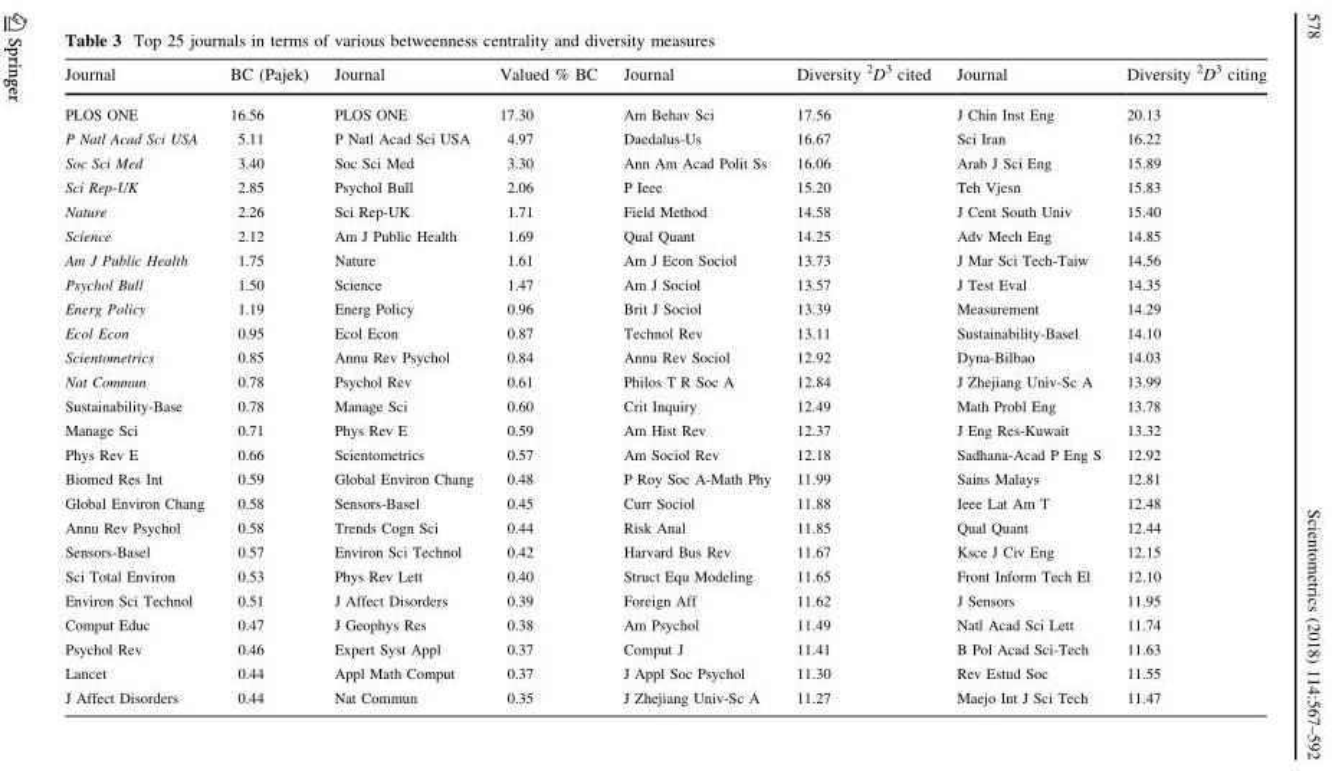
<table><thead><tr><td>Journal</td><td>BC (Pajek)</td><td>Journal</td><td>Valued % BC</td><td>Journal</td><td>Diversity <sup>2</sup>D<sup>3</sup> cited</td><td>Journal</td><td>Diversity <sup>2</sup>D<sup>3</sup> citing</td></tr></thead><tbody><tr><td>PLOS ONE</td><td>16.56</td><td>PLOS ONE</td><td>17.30</td><td>Am Behav Sci</td><td>17.56</td><td>J Chin Inst Eng</td><td>20.13</td></tr><tr><td>P Natl Acad Sci USA</td><td>5.11</td><td>P Natl Acad Sci USA</td><td>4.97</td><td>Daedalus-Us</td><td>16.67</td><td>Sci Iran</td><td>16.22</td></tr><tr><td>Soc Sci Med</td><td>3.40</td><td>Soc Sci Med</td><td>3.30</td><td>Ann Am Acad Polit Ss</td><td>16.06</td><td>Arab J Sci Eng</td><td>15.89</td></tr><tr><td>Sci Rep-UK</td><td>2.85</td><td>Psychol Bull</td><td>2.06</td><td>P Ieee</td><td>15.20</td><td>Teh Vjesn</td><td>15.83</td></tr><tr><td>Nature</td><td>2.26</td><td>Sci Rep-UK</td><td>1.71</td><td>Field Method</td><td>14.58</td><td>J Cent South Univ</td><td>15.40</td></tr><tr><td>Science</td><td>2.12</td><td>Am J Public Health</td><td>1.69</td><td>Qual Quant</td><td>14.25</td><td>Adv Mech Eng</td><td>14.85</td></tr><tr><td>Am J Public Health</td><td>1.75</td><td>Nature</td><td>1.61</td><td>Am J Econ Sociol</td><td>13.73</td><td>J Mar Sci Tech-Taiw</td><td>14.56</td></tr><tr><td>Psychol Bull</td><td>1.50</td><td>Science</td><td>1.47</td><td>Am J Sociol</td><td>13.57</td><td>J Test Eval</td><td>14.35</td></tr><tr><td>Energ Policy</td><td>1.19</td><td>Energ Policy</td><td>0.96</td><td>Brit J Sociol</td><td>13.39</td><td>Measurement</td><td>14.29</td></tr><tr><td>Ecol Econ</td><td>0.95</td><td>Ecol Econ</td><td>0.87</td><td>Technol Rev</td><td>13.11</td><td>Sustainability-Basel</td><td>14.10</td></tr><tr><td>Scientometrics</td><td>0.85</td><td>Annu Rev Psychol</td><td>0.84</td><td>Annu Rev Sociol</td><td>12.92</td><td>Dyna-Bilbao</td><td>14.03</td></tr><tr><td>Nat Commun</td><td>0.78</td><td>Psychol Rev</td><td>0.61</td><td>Philos T R Soc A</td><td>12.84</td><td>J Zhejiang Univ-Sc A</td><td>13.99</td></tr><tr><td>Sustainability-Base</td><td>0.78</td><td>Manage Sci</td><td>0.60</td><td>Crit Inquiry</td><td>12.49</td><td>Math Probl Eng</td><td>13.78</td></tr><tr><td>Manage Sci</td><td>0.71</td><td>Phys Rev E</td><td>0.59</td><td>Am Hist Rev</td><td>12.37</td><td>J Eng Res-Kuwait</td><td>13.32</td></tr><tr><td>Phys Rev E</td><td>0.66</td><td>Scientometrics</td><td>0.57</td><td>Am Sociol Rev</td><td>12.18</td><td>Sadhana-Acad P Eng S</td><td>12.92</td></tr><tr><td>Biomed Res Int</td><td>0.59</td><td>Global Environ Chang</td><td>0.48</td><td>P Roy Soc A-Math Phy</td><td>11.99</td><td>Sains Malays</td><td>12.81</td></tr><tr><td>Global Environ Chang</td><td>0.58</td><td>Sensors-Basel</td><td>0.45</td><td>Curr Sociol</td><td>11.88</td><td>Ieee Lat Am T</td><td>12.48</td></tr><tr><td>Annu Rev Psychol</td><td>0.58</td><td>Trends Cogn Sci</td><td>0.44</td><td>Risk Anal</td><td>11.85</td><td>Qual Quant</td><td>12.44</td></tr><tr><td>Sensors-Basel</td><td>0.57</td><td>Environ Sci Technol</td><td>0.42</td><td>Harvard Bus Rev</td><td>11.67</td><td>Ksce J Civ Eng</td><td>12.15</td></tr><tr><td>Sci Total Environ</td><td>0.53</td><td>Phys Rev Lett</td><td>0.40</td><td>Struct Equ Modeling</td><td>11.65</td><td>Front Inform Tech El</td><td>12.10</td></tr><tr><td>Environ Sci Technol</td><td>0.51</td><td>J Affect Disorders</td><td>0.39</td><td>Foreign Aff</td><td>11.62</td><td>J Sensors</td><td>11.95</td></tr><tr><td>Comput Educ</td><td>0.47</td><td>J Geophys Res</td><td>0.38</td><td>Am Psychol</td><td>11.49</td><td>Natl Acad Sci Lett</td><td>11.74</td></tr><tr><td>Psychol Rev</td><td>0.46</td><td>Expert Syst Appl</td><td>0.37</td><td>Comput J</td><td>11.41</td><td>B Pol Acad Sci-Tech</td><td>11.63</td></tr><tr><td>Lancet</td><td>0.44</td><td>Appl Math Comput</td><td>0.37</td><td>J Appl Soc Psychol</td><td>11.30</td><td>Rev Estud Soc</td><td>11.55</td></tr><tr><td>J Affect Disorders</td><td>0.44</td><td>Nat Commun</td><td>0.35</td><td>J Zhejiang Univ-Sc A</td><td>11.27</td><td>Maejo Int J Sci Tech</td><td>11.47</td></tr></tbody></table>